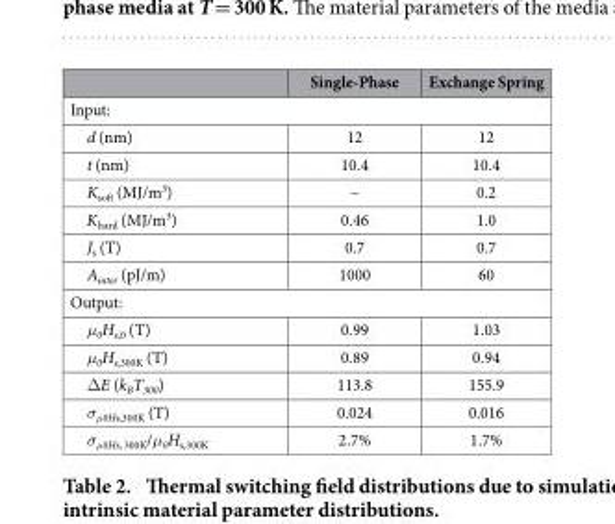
<table><thead><tr><td></td><td>Single-Phase</td><td>Exchange Spring</td></tr></thead><tbody><tr><td colspan="3">Input:</td></tr><tr><td>d (nm)</td><td>12</td><td>12</td></tr><tr><td>t (nm)</td><td>10.4</td><td>10.4</td></tr><tr><td>K<sub>soft</sub> (MJ/m<sup>3</sup>)</td><td>–</td><td>0.2</td></tr><tr><td>K<sub>hard</sub> (MJ/m<sup>3</sup>)</td><td>0.46</td><td>1.0</td></tr><tr><td>J<sub>s</sub> (T)</td><td>0.7</td><td>0.7</td></tr><tr><td>A<sub>inter</sub> (pJ/m)</td><td>1000</td><td>60</td></tr><tr><td colspan="3">Output:</td></tr><tr><td>μ<sub>0</sub>H<sub>s,0</sub> (T)</td><td>0.99</td><td>1.03</td></tr><tr><td>μ<sub>0</sub>H<sub>s,300K</sub> (T)</td><td>0.89</td><td>0.94</td></tr><tr><td>Δ E (k<sub>B</sub>T<sub>300</sub>)</td><td>113.8</td><td>155.9</td></tr><tr><td>σ<sub>μ0Hs,300K</sub> (T)</td><td>0.024</td><td>0.016</td></tr><tr><td>σ<sub>μ0Hs, 300K</sub>/μ<sub>0</sub>H<sub>s,300K</sub></td><td>2.7%</td><td>1.7%</td></tr></tbody></table>